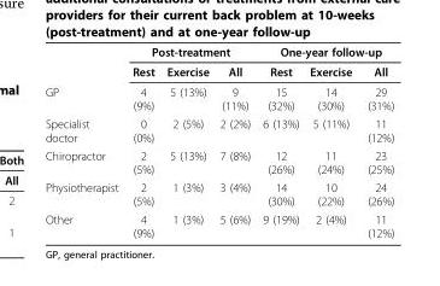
<table><thead><tr><td rowspan="2"></td><td colspan="3">Post-treatment</td><td colspan="3">One-year follow-up</td></tr><tr><td>Rest</td><td>Exercise</td><td>All</td><td>Rest</td><td>Exercise</td><td>All</td></tr></thead><tbody><tr><td>GP</td><td>4 (9%)</td><td>5 (13%)</td><td>9 (11%)</td><td>15 (32%)</td><td>14 (30%)</td><td>29 (31%)</td></tr><tr><td>Specialist doctor</td><td>0 (0%)</td><td>2 (5%)</td><td>2 (2%)</td><td>6 (13%)</td><td>5 (11%)</td><td>11 (12%)</td></tr><tr><td>Chiropractor</td><td>2 (5%)</td><td>5 (13%)</td><td>7 (8%)</td><td>12 (26%)</td><td>11 (24%)</td><td>23 (25%)</td></tr><tr><td>Physiotherapist</td><td>2 (5%)</td><td>1 (3%)</td><td>3 (4%)</td><td>14 (30%)</td><td>10 (22%)</td><td>24 (26%)</td></tr><tr><td>Other</td><td>4 (9%)</td><td>1 (3%)</td><td>5 (6%)</td><td>9 (19%)</td><td>2 (4%)</td><td>11 (12%)</td></tr></tbody></table>